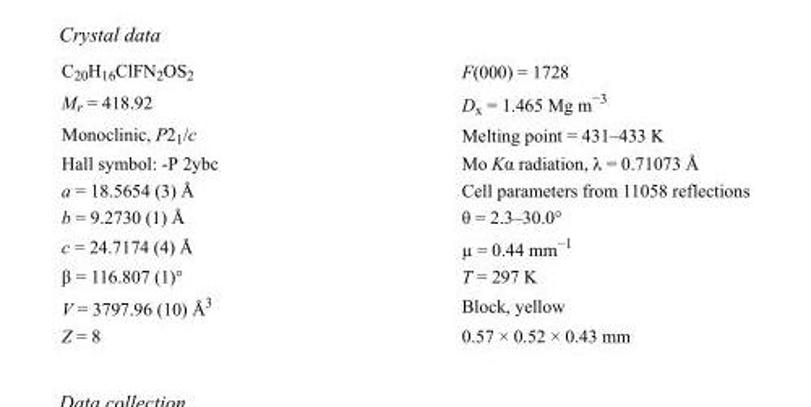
<table><tbody><tr><td>C<sub>20</sub>H<sub>16</sub>ClFN<sub>2</sub>OS<sub>2</sub></td><td>F(000) = 1728</td></tr><tr><td>M<sub>r</sub> = 418.92</td><td>D<sub>x</sub> = 1.465 Mg m<sup>−3</sup></td></tr><tr><td>Monoclinic, P2<sub>1</sub>/c</td><td>Melting point = 431–433 K</td></tr><tr><td>Hall symbol: -P 2ybc</td><td>Mo Kα radiation, λ = 0.71073 Å</td></tr><tr><td>a = 18.5654 (3) Å</td><td>Cell parameters from 11058 reflections</td></tr><tr><td>b = 9.2730 (1) Å</td><td>θ = 2.3–30.0°</td></tr><tr><td>c = 24.7174 (4) Å</td><td>µ = 0.44 mm<sup>−1</sup></td></tr><tr><td>β = 116.807 (1)°</td><td>T = 297 K</td></tr><tr><td>V = 3797.96 (10) Å<sup>3</sup></td><td>Block, yellow</td></tr><tr><td>Z = 8</td><td>0.57 × 0.52 × 0.43 mm</td></tr></tbody></table>